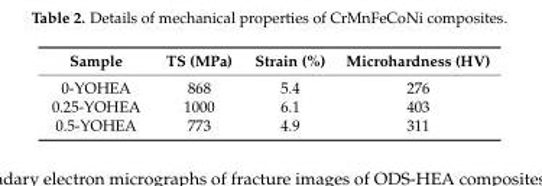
<table><thead><tr><td>Sample</td><td>TS (MPa)</td><td>Strain (%)</td><td>Microhardness (HV)</td></tr></thead><tbody><tr><td>0-YOHEA</td><td>868</td><td>5.4</td><td>276</td></tr><tr><td>0.25-YOHEA</td><td>1000</td><td>6.1</td><td>403</td></tr><tr><td>0.5-YOHEA</td><td>773</td><td>4.9</td><td>311</td></tr></tbody></table>